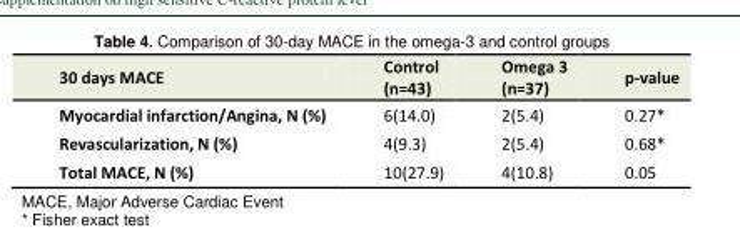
<table><tbody><tr><td>30 days MACE</td><td>Control (n=43)</td><td>Omega 3 (n=37)</td><td>p-value</td></tr><tr><td>Myocardial infarction/Angina, N (%)</td><td>6(14.0)</td><td>2(5.4)</td><td>0.27*</td></tr><tr><td>Revascularization, N (%)</td><td>4(9.3)</td><td>2(5.4)</td><td>0.68*</td></tr><tr><td>Total MACE, N (%)</td><td>10(27.9)</td><td>4(10.8)</td><td>0.05</td></tr></tbody></table>